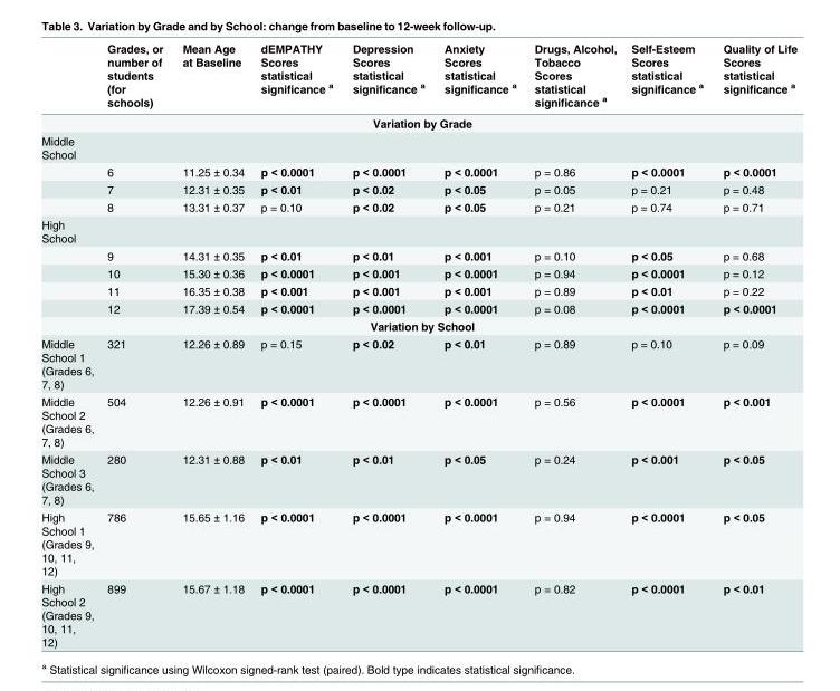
<table><thead><tr><td></td><td>Grades, or number of students (for schools)</td><td>Mean Age at Baseline</td><td>dEMPATHY Scores statistical significance <sup>a</sup></td><td>Depression Scores statistical significance <sup>a</sup></td><td>Anxiety Scores statistical significance <sup>a</sup></td><td>Drugs, Alcohol, Tobacco Scores statistical significance <sup>a</sup></td><td>Self-Esteem Scores statistical significance <sup>a</sup></td><td>Quality of Life Scores statistical significance <sup>a</sup></td></tr></thead><tbody><tr><td colspan="9">Variation by Grade</td></tr><tr><td colspan="9">Middle School</td></tr><tr><td></td><td>6</td><td>11.25 ± 0.34</td><td>p &lt; 0.0001</td><td>p &lt; 0.0001</td><td>p &lt; 0.0001</td><td>p = 0.86</td><td>p &lt; 0.0001</td><td>p &lt; 0.0001</td></tr><tr><td></td><td>7</td><td>12.31 ± 0.35</td><td>p &lt; 0.01</td><td>p &lt; 0.02</td><td>p &lt; 0.05</td><td>p = 0.05</td><td>p = 0.21</td><td>p = 0.48</td></tr><tr><td></td><td>8</td><td>13.31 ± 0.37</td><td>p = 0.10</td><td>p &lt; 0.02</td><td>p &lt; 0.05</td><td>p = 0.21</td><td>p = 0.74</td><td>p = 0.71</td></tr><tr><td colspan="9">High School</td></tr><tr><td></td><td>9</td><td>14.31 ± 0.35</td><td>p &lt; 0.01</td><td>p &lt; 0.01</td><td>p &lt; 0.001</td><td>p = 0.10</td><td>p &lt; 0.05</td><td>p = 0.68</td></tr><tr><td></td><td>10</td><td>15.30 ± 0.36</td><td>p &lt; 0.0001</td><td>p &lt; 0.001</td><td>p &lt; 0.0001</td><td>p = 0.94</td><td>p &lt; 0.0001</td><td>p = 0.12</td></tr><tr><td></td><td>11</td><td>16.35 ± 0.38</td><td>p &lt; 0.001</td><td>p &lt; 0.001</td><td>p &lt; 0.001</td><td>p = 0.89</td><td>p &lt; 0.01</td><td>p = 0.22</td></tr><tr><td></td><td>12</td><td>17.39 ± 0.54</td><td>p &lt; 0.0001</td><td>p &lt; 0.0001</td><td>p &lt; 0.0001</td><td>p = 0.08</td><td>p &lt; 0.0001</td><td>p &lt; 0.0001</td></tr><tr><td colspan="9">Variation by School</td></tr><tr><td>Middle School 1 (Grades 6, 7, 8)</td><td>321</td><td>12.26 ± 0.89</td><td>p = 0.15</td><td>p &lt; 0.02</td><td>p &lt; 0.01</td><td>p = 0.89</td><td>p = 0.10</td><td>p = 0.09</td></tr><tr><td>Middle School 2 (Grades 6, 7, 8)</td><td>504</td><td>12.26 ± 0.91</td><td>p &lt; 0.0001</td><td>p &lt; 0.0001</td><td>p &lt; 0.0001</td><td>p = 0.56</td><td>p &lt; 0.0001</td><td>p &lt; 0.001</td></tr><tr><td>Middle School 3 (Grades 6, 7, 8)</td><td>280</td><td>12.31 ± 0.88</td><td>p &lt; 0.01</td><td>p &lt; 0.01</td><td>p &lt; 0.05</td><td>p = 0.24</td><td>p &lt; 0.001</td><td>p &lt; 0.05</td></tr><tr><td>High School 1 (Grades 9, 10, 11, 12)</td><td>786</td><td>15.65 ± 1.16</td><td>p &lt; 0.0001</td><td>p &lt; 0.0001</td><td>p &lt; 0.0001</td><td>p = 0.94</td><td>p &lt; 0.0001</td><td>p &lt; 0.05</td></tr><tr><td>High School 2 (Grades 9, 10, 11, 12)</td><td>899</td><td>15.67 ± 1.18</td><td>p &lt; 0.0001</td><td>p &lt; 0.0001</td><td>p &lt; 0.0001</td><td>p = 0.82</td><td>p &lt; 0.0001</td><td>p &lt; 0.01</td></tr></tbody></table>